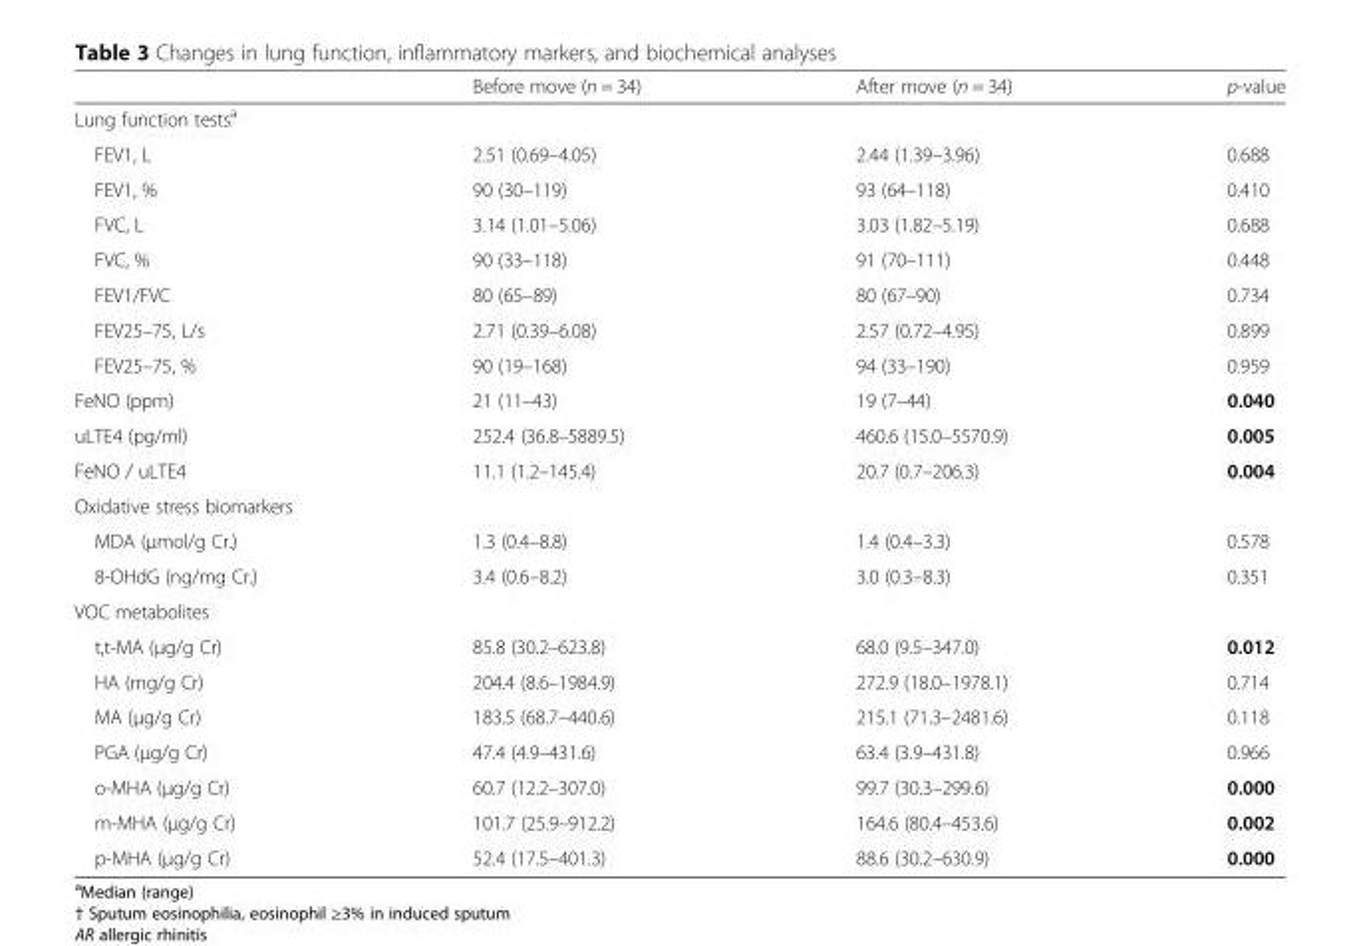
<table><thead><tr><td></td><td>Before move (n = 34)</td><td>After move (n = 34)</td><td>p-value</td></tr></thead><tbody><tr><td colspan="4">Lung function tests<sup>a</sup></td></tr><tr><td>FEV1, L</td><td>2.51 (0.69–4.05)</td><td>2.44 (1.39–3.96)</td><td>0.688</td></tr><tr><td>FEV1, %</td><td>90 (30–119)</td><td>93 (64–118)</td><td>0.410</td></tr><tr><td>FVC, L</td><td>3.14 (1.01–5.06)</td><td>3.03 (1.82–5.19)</td><td>0.688</td></tr><tr><td>FVC, %</td><td>90 (33–118)</td><td>91 (70–111)</td><td>0.448</td></tr><tr><td>FEV1/FVC</td><td>80 (65–89)</td><td>80 (67–90)</td><td>0.734</td></tr><tr><td>FEV25–75, L/s</td><td>2.71 (0.39–6.08)</td><td>2.57 (0.72–4.95)</td><td>0.899</td></tr><tr><td>FEV25–75, %</td><td>90 (19–168)</td><td>94 (33–190)</td><td>0.959</td></tr><tr><td>FeNO (ppm)</td><td>21 (11–43)</td><td>19 (7–44)</td><td>0.040</td></tr><tr><td>uLTE4 (pg/ml)</td><td>252.4 (36.8–5889.5)</td><td>460.6 (15.0–5570.9)</td><td>0.005</td></tr><tr><td>FeNO / uLTE4</td><td>11.1 (1.2–145.4)</td><td>20.7 (0.7–206.3)</td><td>0.004</td></tr><tr><td colspan="4">Oxidative stress biomarkers</td></tr><tr><td>MDA (μmol/g Cr.)</td><td>1.3 (0.4–8.8)</td><td>1.4 (0.4–3.3)</td><td>0.578</td></tr><tr><td>8-OHdG (ng/mg Cr.)</td><td>3.4 (0.6–8.2)</td><td>3.0 (0.3–8.3)</td><td>0.351</td></tr><tr><td colspan="4">VOC metabolites</td></tr><tr><td>t,t-MA (μg/g Cr)</td><td>85.8 (30.2–623.8)</td><td>68.0 (9.5–347.0)</td><td>0.012</td></tr><tr><td>HA (mg/g Cr)</td><td>204.4 (8.6–1984.9)</td><td>272.9 (18.0–1978.1)</td><td>0.714</td></tr><tr><td>MA (μg/g Cr)</td><td>183.5 (68.7–440.6)</td><td>215.1 (71.3–2481.6)</td><td>0.118</td></tr><tr><td>PGA (μg/g Cr)</td><td>47.4 (4.9–431.6)</td><td>63.4 (3.9–431.8)</td><td>0.966</td></tr><tr><td>o-MHA (μg/g Cr)</td><td>60.7 (12.2–307.0)</td><td>99.7 (30.3–299.6)</td><td>0.000</td></tr><tr><td>m-MHA (μg/g Cr)</td><td>101.7 (25.9–912.2)</td><td>164.6 (80.4–453.6)</td><td>0.002</td></tr><tr><td>p-MHA (μg/g Cr)</td><td>52.4 (17.5–401.3)</td><td>88.6 (30.2–630.9)</td><td>0.000</td></tr></tbody></table>